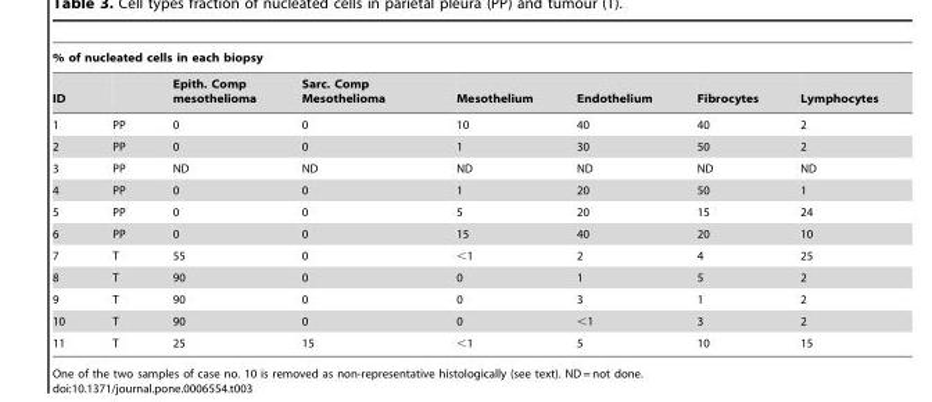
<table><thead><tr><td colspan="8">% of nucleated cells in each biopsy</td></tr><tr><td>ID</td><td></td><td>Epith. Comp mesothelioma</td><td>Sarc. Comp Mesothelioma</td><td>Mesothelium</td><td>Endothelium</td><td>Fibrocytes</td><td>Lymphocytes</td></tr></thead><tbody><tr><td>1</td><td>PP</td><td>0</td><td>0</td><td>10</td><td>40</td><td>40</td><td>2</td></tr><tr><td>2</td><td>PP</td><td>0</td><td>0</td><td>1</td><td>30</td><td>50</td><td>2</td></tr><tr><td>3</td><td>PP</td><td>ND</td><td>ND</td><td>ND</td><td>ND</td><td>ND</td><td>ND</td></tr><tr><td>4</td><td>PP</td><td>0</td><td>0</td><td>1</td><td>20</td><td>50</td><td>1</td></tr><tr><td>5</td><td>PP</td><td>0</td><td>0</td><td>5</td><td>20</td><td>15</td><td>24</td></tr><tr><td>6</td><td>PP</td><td>0</td><td>0</td><td>15</td><td>40</td><td>20</td><td>10</td></tr><tr><td>7</td><td>T</td><td>55</td><td>0</td><td>&lt;1</td><td>2</td><td>4</td><td>25</td></tr><tr><td>8</td><td>T</td><td>90</td><td>0</td><td>0</td><td>1</td><td>5</td><td>2</td></tr><tr><td>9</td><td>T</td><td>90</td><td>0</td><td>0</td><td>3</td><td>1</td><td>2</td></tr><tr><td>10</td><td>T</td><td>90</td><td>0</td><td>0</td><td>&lt;1</td><td>3</td><td>2</td></tr><tr><td>11</td><td>T</td><td>25</td><td>15</td><td>&lt;1</td><td>5</td><td>10</td><td>15</td></tr></tbody></table>